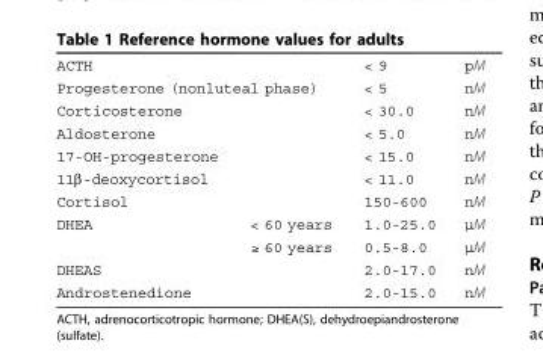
<table><tbody><tr><td>ACTH</td><td></td><td>&lt; 9</td><td>pM</td></tr><tr><td colspan="2">Progesterone (nonluteal phase)</td><td>&lt; 5</td><td>nM</td></tr><tr><td>Corticosterone</td><td></td><td>&lt; 30.0</td><td>nM</td></tr><tr><td>Aldosterone</td><td></td><td>&lt; 5.0</td><td>nM</td></tr><tr><td>17-OH-progesterone</td><td></td><td>&lt; 15.0</td><td>nM</td></tr><tr><td>11β-deoxycortisol</td><td></td><td>&lt; 11.0</td><td>nM</td></tr><tr><td>Cortisol</td><td></td><td>150-600</td><td>nM</td></tr><tr><td rowspan="2">DHEA</td><td>&lt; 60 years</td><td>1.0-25.0</td><td>μM</td></tr><tr><td>≥ 60 years</td><td>0.5-8.0</td><td>μM</td></tr><tr><td>DHEAS</td><td></td><td>2.0-17.0</td><td>nM</td></tr><tr><td>Androstenedione</td><td></td><td>2.0-15.0</td><td>nM</td></tr></tbody></table>